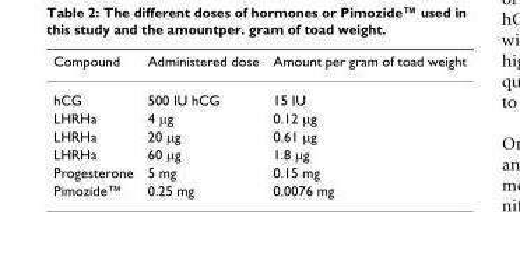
<table><thead><tr><td>Compound</td><td>Administered dose</td><td>Amount per gram of toad weight</td></tr></thead><tbody><tr><td>hCG</td><td>500 IU hCG</td><td>15 IU</td></tr><tr><td>LHRHa</td><td>4 µg</td><td>0.12 µg</td></tr><tr><td>LHRHa</td><td>20 µg</td><td>0.61 µg</td></tr><tr><td>LHRHa</td><td>60 µg</td><td>1.8 µg</td></tr><tr><td>Progesterone</td><td>5 mg</td><td>0.15 mg</td></tr><tr><td>Pimozide™</td><td>0.25 mg</td><td>0.0076 mg</td></tr></tbody></table>